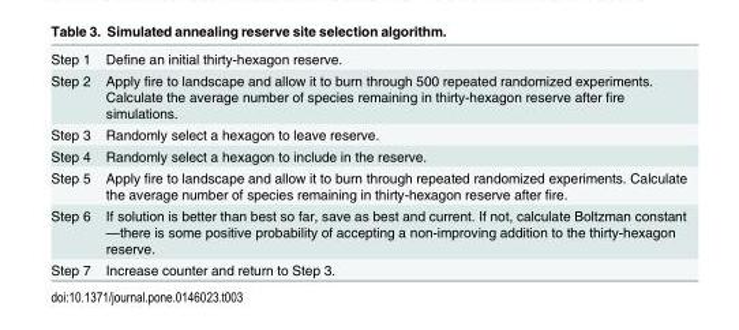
<table><tbody><tr><td>Step 1</td><td>Define an initial thirty-hexagon reserve.</td></tr><tr><td>Step 2</td><td>Apply fire to landscape and allow it to burn through 500 repeated randomized experiments. Calculate the average number of species remaining in thirty-hexagon reserve after fire simulations.</td></tr><tr><td>Step 3</td><td>Randomly select a hexagon to leave reserve.</td></tr><tr><td>Step 4</td><td>Randomly select a hexagon to include in the reserve.</td></tr><tr><td>Step 5</td><td>Apply fire to landscape and allow it to burn through repeated randomized experiments. Calculate the average number of species remaining in thirty-hexagon reserve after fire.</td></tr><tr><td>Step 6</td><td>If solution is better than best so far, save as best and current. If not, calculate Boltzman constant —there is some positive probability of accepting a non-improving addition to the thirty-hexagon reserve.</td></tr><tr><td>Step 7</td><td>Increase counter and return to Step 3.</td></tr></tbody></table>